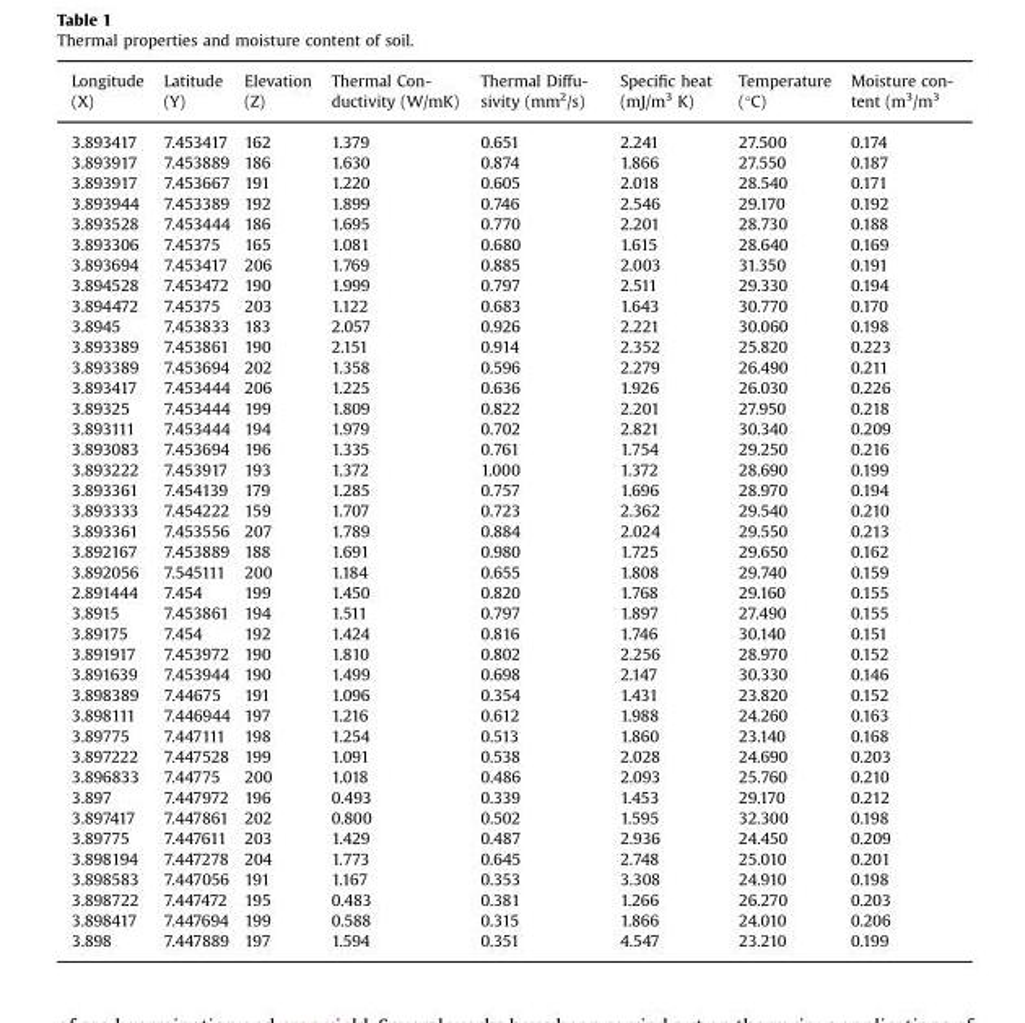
<table><thead><tr><td>Longitude (X)</td><td>Latitude (Y)</td><td>Elevation (Z)</td><td>Thermal Con- ductivity (W/mK)</td><td>Thermal Diffu- sivity (mm2/s)</td><td>Specific heat (mJ/m<sup>3</sup> K)</td><td>Temperature (°C)</td><td>Moisture con- tent (m3/m3</td></tr></thead><tbody><tr><td>3.893417</td><td>7.453417</td><td>162</td><td>1.379</td><td>0.651</td><td>2.241</td><td>27.500</td><td>0.174</td></tr><tr><td>3.893917</td><td>7.453889</td><td>186</td><td>1.630</td><td>0.874</td><td>1.866</td><td>27.550</td><td>0.187</td></tr><tr><td>3.893917</td><td>7.453667</td><td>191</td><td>1.220</td><td>0.605</td><td>2.018</td><td>28.540</td><td>0.171</td></tr><tr><td>3.893944</td><td>7.453389</td><td>192</td><td>1.899</td><td>0.746</td><td>2.546</td><td>29.170</td><td>0.192</td></tr><tr><td>3.893528</td><td>7.453444</td><td>186</td><td>1.695</td><td>0.770</td><td>2.201</td><td>28.730</td><td>0.188</td></tr><tr><td>3.893306</td><td>7.45375</td><td>165</td><td>1.081</td><td>0.680</td><td>1.615</td><td>28.640</td><td>0.169</td></tr><tr><td>3.893694</td><td>7.453417</td><td>206</td><td>1.769</td><td>0.885</td><td>2.003</td><td>31.350</td><td>0.191</td></tr><tr><td>3.894528</td><td>7.453472</td><td>190</td><td>1.999</td><td>0.797</td><td>2.511</td><td>29.330</td><td>0.194</td></tr><tr><td>3.894472</td><td>7.45375</td><td>203</td><td>1.122</td><td>0.683</td><td>1.643</td><td>30.770</td><td>0.170</td></tr><tr><td>3.8945</td><td>7.453833</td><td>183</td><td>2.057</td><td>0.926</td><td>2.221</td><td>30.060</td><td>0.198</td></tr><tr><td>3.893389</td><td>7.453861</td><td>190</td><td>2.151</td><td>0.914</td><td>2.352</td><td>25.820</td><td>0.223</td></tr><tr><td>3.893389</td><td>7.453694</td><td>202</td><td>1.358</td><td>0.596</td><td>2.279</td><td>26.490</td><td>0.211</td></tr><tr><td>3.893417</td><td>7.453444</td><td>206</td><td>1.225</td><td>0.636</td><td>1.926</td><td>26.030</td><td>0.226</td></tr><tr><td>3.89325</td><td>7.453444</td><td>199</td><td>1.809</td><td>0.822</td><td>2.201</td><td>27.950</td><td>0.218</td></tr><tr><td>3.893111</td><td>7.453444</td><td>194</td><td>1.979</td><td>0.702</td><td>2.821</td><td>30.340</td><td>0.209</td></tr><tr><td>3.893083</td><td>7.453694</td><td>196</td><td>1.335</td><td>0.761</td><td>1.754</td><td>29.250</td><td>0.216</td></tr><tr><td>3.893222</td><td>7.453917</td><td>193</td><td>1.372</td><td>1.000</td><td>1.372</td><td>28.690</td><td>0.199</td></tr><tr><td>3.893361</td><td>7.454139</td><td>179</td><td>1.285</td><td>0.757</td><td>1.696</td><td>28.970</td><td>0.194</td></tr><tr><td>3.893333</td><td>7.454222</td><td>159</td><td>1.707</td><td>0.723</td><td>2.362</td><td>29.540</td><td>0.210</td></tr><tr><td>3.893361</td><td>7.453556</td><td>207</td><td>1.789</td><td>0.884</td><td>2.024</td><td>29.550</td><td>0.213</td></tr><tr><td>3.892167</td><td>7.453889</td><td>188</td><td>1.691</td><td>0.980</td><td>1.725</td><td>29.650</td><td>0.162</td></tr><tr><td>3.892056</td><td>7.545111</td><td>200</td><td>1.184</td><td>0.655</td><td>1.808</td><td>29.740</td><td>0.159</td></tr><tr><td>2.891444</td><td>7.454</td><td>199</td><td>1.450</td><td>0.820</td><td>1.768</td><td>29.160</td><td>0.155</td></tr><tr><td>3.8915</td><td>7.453861</td><td>194</td><td>1.511</td><td>0.797</td><td>1.897</td><td>27.490</td><td>0.155</td></tr><tr><td>3.89175</td><td>7.454</td><td>192</td><td>1.424</td><td>0.816</td><td>1.746</td><td>30.140</td><td>0.151</td></tr><tr><td>3.891917</td><td>7.453972</td><td>190</td><td>1.810</td><td>0.802</td><td>2.256</td><td>28.970</td><td>0.152</td></tr><tr><td>3.891639</td><td>7.453944</td><td>190</td><td>1.499</td><td>0.698</td><td>2.147</td><td>30.330</td><td>0.146</td></tr><tr><td>3.898389</td><td>7.44675</td><td>191</td><td>1.096</td><td>0.354</td><td>1.431</td><td>23.820</td><td>0.152</td></tr><tr><td>3.898111</td><td>7.446944</td><td>197</td><td>1.216</td><td>0.612</td><td>1.988</td><td>24.260</td><td>0.163</td></tr><tr><td>3.89775</td><td>7.447111</td><td>198</td><td>1.254</td><td>0.513</td><td>1.860</td><td>23.140</td><td>0.168</td></tr><tr><td>3.897222</td><td>7.447528</td><td>199</td><td>1.091</td><td>0.538</td><td>2.028</td><td>24.690</td><td>0.203</td></tr><tr><td>3.896833</td><td>7.44775</td><td>200</td><td>1.018</td><td>0.486</td><td>2.093</td><td>25.760</td><td>0.210</td></tr><tr><td>3.897</td><td>7.447972</td><td>196</td><td>0.493</td><td>0.339</td><td>1.453</td><td>29.170</td><td>0.212</td></tr><tr><td>3.897417</td><td>7.447861</td><td>202</td><td>0.800</td><td>0.502</td><td>1.595</td><td>32.300</td><td>0.198</td></tr><tr><td>3.89775</td><td>7.447611</td><td>203</td><td>1.429</td><td>0.487</td><td>2.936</td><td>24.450</td><td>0.209</td></tr><tr><td>3.898194</td><td>7.447278</td><td>204</td><td>1.773</td><td>0.645</td><td>2.748</td><td>25.010</td><td>0.201</td></tr><tr><td>3.898583</td><td>7.447056</td><td>191</td><td>1.167</td><td>0.353</td><td>3.308</td><td>24.910</td><td>0.198</td></tr><tr><td>3.898722</td><td>7.447472</td><td>195</td><td>0.483</td><td>0.381</td><td>1.266</td><td>26.270</td><td>0.203</td></tr><tr><td>3.898417</td><td>7.447694</td><td>199</td><td>0.588</td><td>0.315</td><td>1.866</td><td>24.010</td><td>0.206</td></tr><tr><td>3.898</td><td>7.447889</td><td>197</td><td>1.594</td><td>0.351</td><td>4.547</td><td>23.210</td><td>0.199</td></tr></tbody></table>